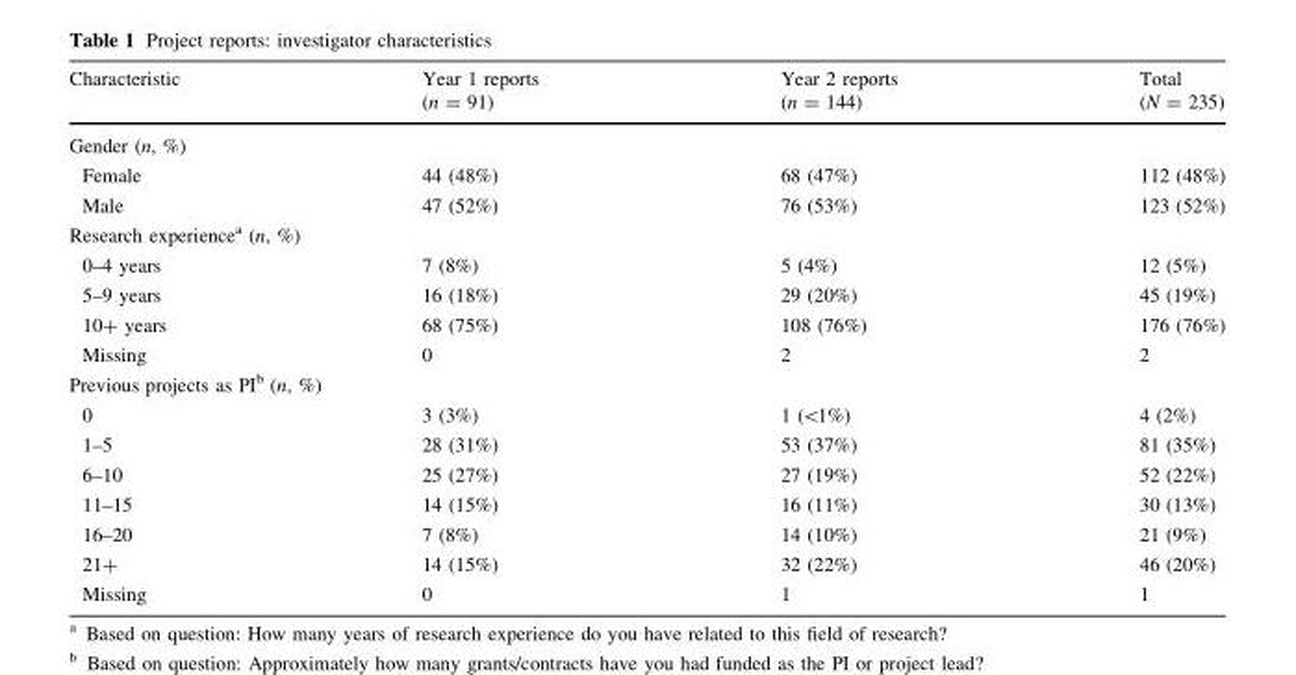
<table><thead><tr><td>Characteristic</td><td>Year 1 reports (n = 91)</td><td>Year 2 reports (n = 144)</td><td>Total (N = 235)</td></tr></thead><tbody><tr><td colspan="4">Gender (n, %)</td></tr><tr><td>Female</td><td>44 (48%)</td><td>68 (47%)</td><td>112 (48%)</td></tr><tr><td>Male</td><td>47 (52%)</td><td>76 (53%)</td><td>123 (52%)</td></tr><tr><td colspan="4">Research experience<sup>a</sup> (n, %)</td></tr><tr><td>0–4 years</td><td>7 (8%)</td><td>5 (4%)</td><td>12 (5%)</td></tr><tr><td>5–9 years</td><td>16 (18%)</td><td>29 (20%)</td><td>45 (19%)</td></tr><tr><td>10+ years</td><td>68 (75%)</td><td>108 (76%)</td><td>176 (76%)</td></tr><tr><td>Missing</td><td>0</td><td>2</td><td>2</td></tr><tr><td colspan="4">Previous projects as PI<sup>b</sup> (n, %)</td></tr><tr><td>0</td><td>3 (3%)</td><td>1 (&lt;1%)</td><td>4 (2%)</td></tr><tr><td>1–5</td><td>28 (31%)</td><td>53 (37%)</td><td>81 (35%)</td></tr><tr><td>6–10</td><td>25 (27%)</td><td>27 (19%)</td><td>52 (22%)</td></tr><tr><td>11–15</td><td>14 (15%)</td><td>16 (11%)</td><td>30 (13%)</td></tr><tr><td>16–20</td><td>7 (8%)</td><td>14 (10%)</td><td>21 (9%)</td></tr><tr><td>21+</td><td>14 (15%)</td><td>32 (22%)</td><td>46 (20%)</td></tr><tr><td>Missing</td><td>0</td><td>1</td><td>1</td></tr></tbody></table>